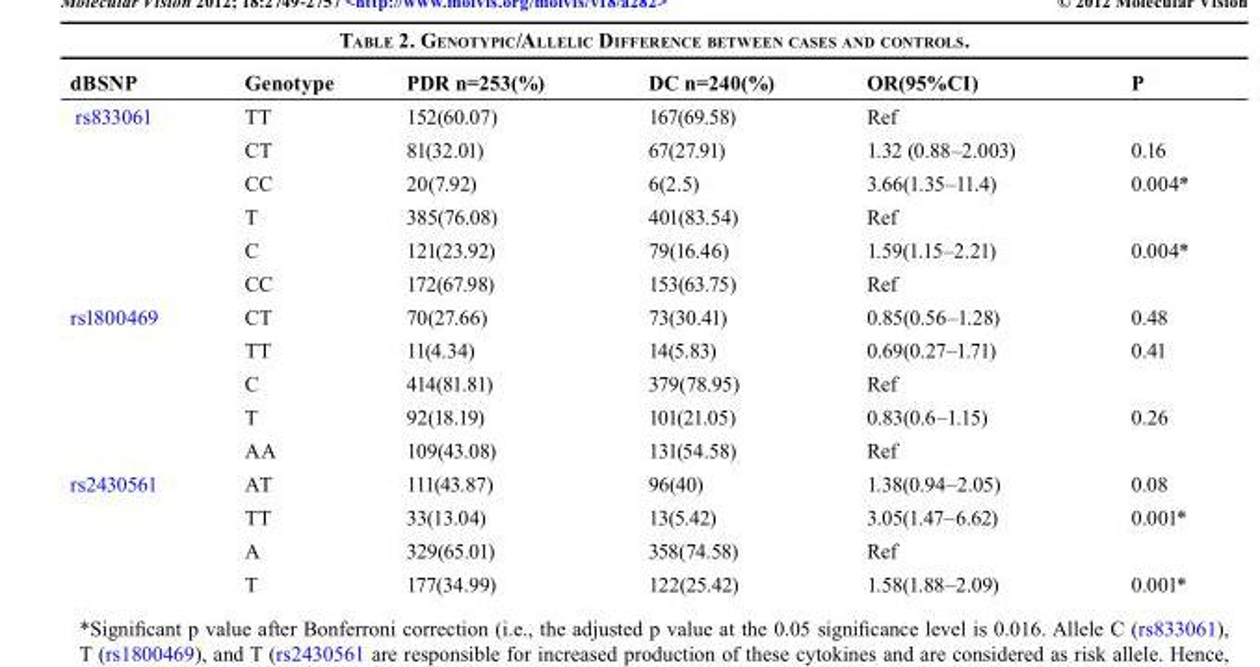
<table><thead><tr><td>dBSNP</td><td>Genotype</td><td>PDR n=253(%)</td><td>DC n=240(%)</td><td>OR(95%CI)</td><td>P</td></tr></thead><tbody><tr><td rowspan="6">rs833061</td><td>TT</td><td>152(60.07)</td><td>167(69.58)</td><td>Ref</td><td></td></tr><tr><td>CT</td><td>81(32.01)</td><td>67(27.91)</td><td>1.32 (0.88–2.003)</td><td>0.16</td></tr><tr><td>CC</td><td>20(7.92)</td><td>6(2.5)</td><td>3.66(1.35–11.4)</td><td>0.004*</td></tr><tr><td>T</td><td>385(76.08)</td><td>401(83.54)</td><td>Ref</td><td></td></tr><tr><td>C</td><td>121(23.92)</td><td>79(16.46)</td><td>1.59(1.15–2.21)</td><td>0.004*</td></tr><tr><td>CC</td><td>172(67.98)</td><td>153(63.75)</td><td>Ref</td><td></td></tr><tr><td rowspan="5">rs1800469</td><td>CT</td><td>70(27.66)</td><td>73(30.41)</td><td>0.85(0.56–1.28)</td><td>0.48</td></tr><tr><td>TT</td><td>11(4.34)</td><td>14(5.83)</td><td>0.69(0.27–1.71)</td><td>0.41</td></tr><tr><td>C</td><td>414(81.81)</td><td>379(78.95)</td><td>Ref</td><td></td></tr><tr><td>T</td><td>92(18.19)</td><td>101(21.05)</td><td>0.83(0.6–1.15)</td><td>0.26</td></tr><tr><td>AA</td><td>109(43.08)</td><td>131(54.58)</td><td>Ref</td><td></td></tr><tr><td rowspan="4">rs2430561</td><td>AT</td><td>111(43.87)</td><td>96(40)</td><td>1.38(0.94–2.05)</td><td>0.08</td></tr><tr><td>TT</td><td>33(13.04)</td><td>13(5.42)</td><td>3.05(1.47–6.62)</td><td>0.001*</td></tr><tr><td>A</td><td>329(65.01)</td><td>358(74.58)</td><td>Ref</td><td></td></tr><tr><td>T</td><td>177(34.99)</td><td>122(25.42)</td><td>1.58(1.88–2.09)</td><td>0.001*</td></tr></tbody></table>